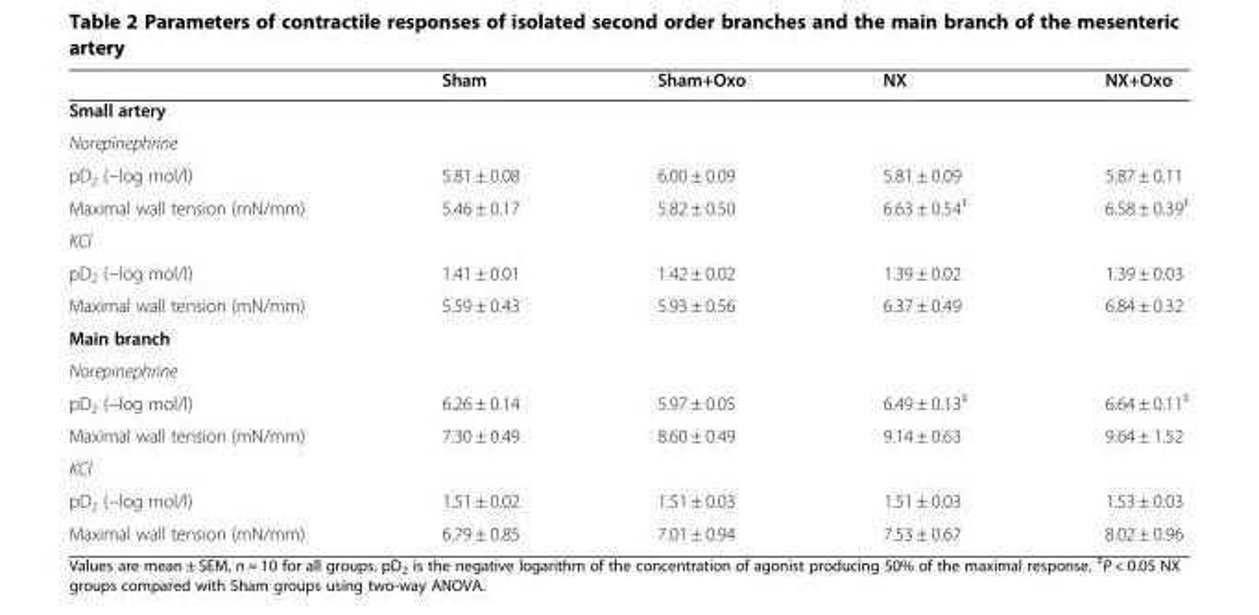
<table><thead><tr><td></td><td>Sham</td><td>Sham+Oxo</td><td>NX</td><td>NX+Oxo</td></tr></thead><tbody><tr><td colspan="5">Small artery</td></tr><tr><td colspan="5">Norepinephrine</td></tr><tr><td>pD<sub>2</sub> (−log mol/l)</td><td>5.81 ± 0.08</td><td>6.00 ± 0.09</td><td>5.81 ± 0.09</td><td>5.87 ± 0.11</td></tr><tr><td>Maximal wall tension (mN/mm)</td><td>5.46 ± 0.17</td><td>5.82 ± 0.50</td><td>6.63 ± 0.54<sup>‡</sup></td><td>6.58 ± 0.39<sup>‡</sup></td></tr><tr><td colspan="5">KCl</td></tr><tr><td>pD<sub>2</sub> (−log mol/l)</td><td>1.41 ± 0.01</td><td>1.42 ± 0.02</td><td>1.39 ± 0.02</td><td>1.39 ± 0.03</td></tr><tr><td>Maximal wall tension (mN/mm)</td><td>5.59 ± 0.43</td><td>5.93 ± 0.56</td><td>6.37 ± 0.49</td><td>6.84 ± 0.32</td></tr><tr><td colspan="5">Main branch</td></tr><tr><td colspan="5">Norepinephrine</td></tr><tr><td>pD<sub>2</sub> (−log mol/l)</td><td>6.26 ± 0.14</td><td>5.97 ± 0.05</td><td>6.49 ± 0.13<sup>‡</sup></td><td>6.64 ± 0.11<sup>‡</sup></td></tr><tr><td>Maximal wall tension (mN/mm)</td><td>7.30 ± 0.49</td><td>8.60 ± 0.49</td><td>9.14 ± 0.63</td><td>9.64 ± 1.52</td></tr><tr><td colspan="5">KCl</td></tr><tr><td>pD<sub>2</sub> (−log mol/l)</td><td>1.51 ± 0.02</td><td>1.51 ± 0.03</td><td>1.51 ± 0.03</td><td>1.53 ± 0.03</td></tr><tr><td>Maximal wall tension (mN/mm)</td><td>6.79 ± 0.85</td><td>7.01 ± 0.94</td><td>7.53 ± 0.67</td><td>8.02 ± 0.96</td></tr></tbody></table>